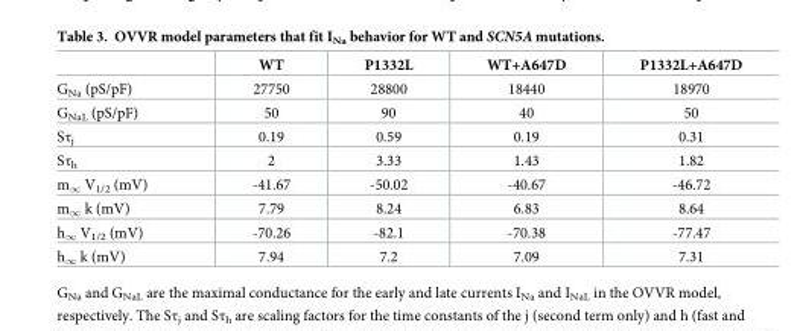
<table><thead><tr><td></td><td>WT</td><td>P1332L</td><td>WT+A647D</td><td>P1332L+A647D</td></tr></thead><tbody><tr><td>G<sub>Na</sub> (pS/pF)</td><td>27750</td><td>28800</td><td>18440</td><td>18970</td></tr><tr><td>G<sub>NaL</sub> (pS/pF)</td><td>50</td><td>90</td><td>40</td><td>50</td></tr><tr><td>Sτ<sub>j</sub></td><td>0.19</td><td>0.59</td><td>0.19</td><td>0.31</td></tr><tr><td>Sτ<sub>h</sub></td><td>2</td><td>3.33</td><td>1.43</td><td>1.82</td></tr><tr><td>m<sub>∞</sub> V<sub>1/2</sub> (mV)</td><td>-41.67</td><td>-50.02</td><td>-40.67</td><td>-46.72</td></tr><tr><td>m<sub>∞</sub> k (mV)</td><td>7.79</td><td>8.24</td><td>6.83</td><td>8.64</td></tr><tr><td>h<sub>∞</sub> V<sub>1/2</sub> (mV)</td><td>-70.26</td><td>-82.1</td><td>-70.38</td><td>-77.47</td></tr><tr><td>h<sub>∞</sub> k (mV)</td><td>7.94</td><td>7.2</td><td>7.09</td><td>7.31</td></tr></tbody></table>